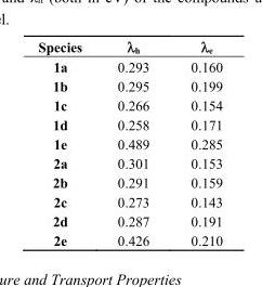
<table><thead><tr><td>Species</td><td>λ<sub>h</sub></td><td>λ<sub>e</sub></td></tr></thead><tbody><tr><td>1a</td><td>0.293</td><td>0.160</td></tr><tr><td>1b</td><td>0.295</td><td>0.199</td></tr><tr><td>1c</td><td>0.266</td><td>0.154</td></tr><tr><td>1d</td><td>0.258</td><td>0.171</td></tr><tr><td>1e</td><td>0.489</td><td>0.285</td></tr><tr><td>2a</td><td>0.301</td><td>0.153</td></tr><tr><td>2b</td><td>0.291</td><td>0.159</td></tr><tr><td>2c</td><td>0.273</td><td>0.143</td></tr><tr><td>2d</td><td>0.287</td><td>0.191</td></tr><tr><td>2e</td><td>0.426</td><td>0.210</td></tr></tbody></table>